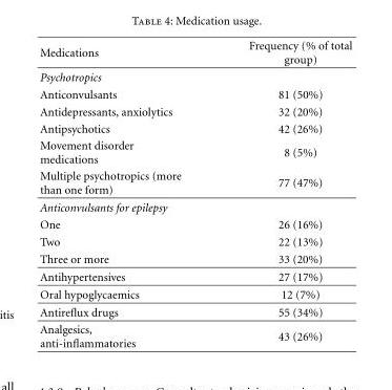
<table><thead><tr><td>Medications</td><td>Frequency (% of total group)</td></tr></thead><tbody><tr><td colspan="2">Psychotropics</td></tr><tr><td>Anticonvulsants</td><td>81 (50%)</td></tr><tr><td>Antidepressants, anxiolytics</td><td>32 (20%)</td></tr><tr><td>Antipsychotics</td><td>42 (26%)</td></tr><tr><td>Movement disorder medications</td><td>8 (5%)</td></tr><tr><td>Multiple psychotropics (more than one form)</td><td>77 (47%)</td></tr><tr><td colspan="2">Anticonvulsants for epilepsy</td></tr><tr><td>One</td><td>26 (16%)</td></tr><tr><td>Two</td><td>22 (13%)</td></tr><tr><td>Three or more</td><td>33 (20%)</td></tr><tr><td>Antihypertensives</td><td>27 (17%)</td></tr><tr><td>Oral hypoglycaemics</td><td>12 (7%)</td></tr><tr><td>Antireflux drugs</td><td>55 (34%)</td></tr><tr><td>Analgesics, anti-inflammatories</td><td>43 (26%)</td></tr></tbody></table>